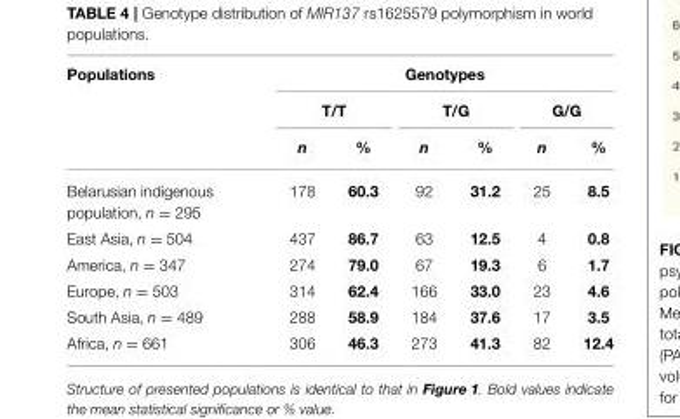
<table><thead><tr><td rowspan="3">Populations</td><td colspan="6">Genotypes</td></tr><tr><td colspan="2">T/T</td><td colspan="2">T/G</td><td colspan="2">G/G</td></tr><tr><td>n</td><td>%</td><td>n</td><td>%</td><td>n</td><td>%</td></tr></thead><tbody><tr><td>Belarusian indigenous population, n = 295</td><td>178</td><td>60.3</td><td>92</td><td>31.2</td><td>25</td><td>8.5</td></tr><tr><td>East Asia, n = 504</td><td>437</td><td>86.7</td><td>63</td><td>12.5</td><td>4</td><td>0.8</td></tr><tr><td>America, n = 347</td><td>274</td><td>79.0</td><td>67</td><td>19.3</td><td>6</td><td>1.7</td></tr><tr><td>Europe, n = 503</td><td>314</td><td>62.4</td><td>166</td><td>33.0</td><td>23</td><td>4.6</td></tr><tr><td>South Asia, n = 489</td><td>288</td><td>58.9</td><td>184</td><td>37.6</td><td>17</td><td>3.5</td></tr><tr><td>Africa, n = 661</td><td>306</td><td>46.3</td><td>273</td><td>41.3</td><td>82</td><td>12.4</td></tr></tbody></table>